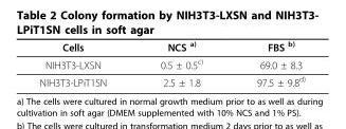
<table><thead><tr><td>Cells</td><td>NCS <sup>a)</sup></td><td>FBS <sup>b)</sup></td></tr></thead><tbody><tr><td>NIH3T3-LXSN</td><td>0.5 ± 0.5<sup>c)</sup></td><td>69.0 ± 8.3</td></tr><tr><td>NIH3T3-LPiT1SN</td><td>2.5 ± 1.8</td><td>97.5 ± 9.8<sup>d)</sup></td></tr></tbody></table>